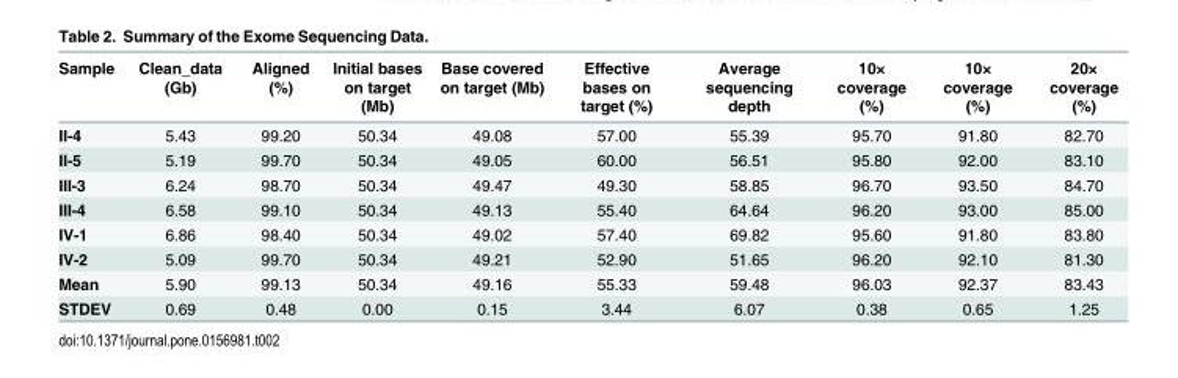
<table><thead><tr><td>Sample</td><td>Clean_data (Gb)</td><td>Aligned (%)</td><td>Initial bases on target (Mb)</td><td>Base covered on target (Mb)</td><td>Effective bases on target (%)</td><td>Average sequencing depth</td><td>10× coverage (%)</td><td>10× coverage (%)</td><td>20× coverage (%)</td></tr></thead><tbody><tr><td>II-4</td><td>5.43</td><td>99.20</td><td>50.34</td><td>49.08</td><td>57.00</td><td>55.39</td><td>95.70</td><td>91.80</td><td>82.70</td></tr><tr><td>II-5</td><td>5.19</td><td>99.70</td><td>50.34</td><td>49.05</td><td>60.00</td><td>56.51</td><td>95.80</td><td>92.00</td><td>83.10</td></tr><tr><td>III-3</td><td>6.24</td><td>98.70</td><td>50.34</td><td>49.47</td><td>49.30</td><td>58.85</td><td>96.70</td><td>93.50</td><td>84.70</td></tr><tr><td>III-4</td><td>6.58</td><td>99.10</td><td>50.34</td><td>49.13</td><td>55.40</td><td>64.64</td><td>96.20</td><td>93.00</td><td>85.00</td></tr><tr><td>IV-1</td><td>6.86</td><td>98.40</td><td>50.34</td><td>49.02</td><td>57.40</td><td>69.82</td><td>95.60</td><td>91.80</td><td>83.80</td></tr><tr><td>IV-2</td><td>5.09</td><td>99.70</td><td>50.34</td><td>49.21</td><td>52.90</td><td>51.65</td><td>96.20</td><td>92.10</td><td>81.30</td></tr><tr><td>Mean</td><td>5.90</td><td>99.13</td><td>50.34</td><td>49.16</td><td>55.33</td><td>59.48</td><td>96.03</td><td>92.37</td><td>83.43</td></tr><tr><td>STDEV</td><td>0.69</td><td>0.48</td><td>0.00</td><td>0.15</td><td>3.44</td><td>6.07</td><td>0.38</td><td>0.65</td><td>1.25</td></tr></tbody></table>